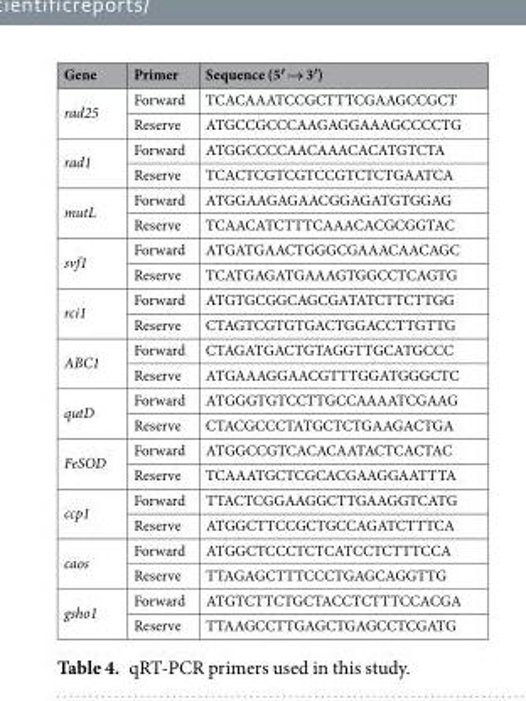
<table><thead><tr><td>Gene</td><td>Primer</td><td>Sequence (5′ → 3′)</td></tr></thead><tbody><tr><td rowspan="2">rad25</td><td>Forward</td><td>TCACAAATCCGCTTTCGAAGCCGCT</td></tr><tr><td>Reserve</td><td>ATGCCGCCCAAGAGGAAAGCCCCTG</td></tr><tr><td rowspan="2">rad1</td><td>Forward</td><td>ATGGCCCCAACAAACACATGTCTA</td></tr><tr><td>Reserve</td><td>TCACTCGTCGTCCGTCTCTGAATCA</td></tr><tr><td rowspan="2">mutL</td><td>Forward</td><td>ATGGAAGAGAACGGAGATGTGGAG</td></tr><tr><td>Reserve</td><td>TCAACATCTTTCAAACACGCGGTAC</td></tr><tr><td rowspan="2">svf1</td><td>Forward</td><td>ATGATGAACTGGGCGAAACAACAGC</td></tr><tr><td>Reserve</td><td>TCATGAGATGAAAGTGGCCTCAGTG</td></tr><tr><td rowspan="2">rci1</td><td>Forward</td><td>ATGTGCGGCAGCGATATCTTCTTGG</td></tr><tr><td>Reserve</td><td>CTAGTCGTGTGACTGGACCTTGTTG</td></tr><tr><td rowspan="2">ABC1</td><td>Forward</td><td>CTAGATGACTGTAGGTTGCATGCCC</td></tr><tr><td>Reserve</td><td>ATGAAAGGAACGTTTGGATGGGCTC</td></tr><tr><td rowspan="2">qutD</td><td>Forward</td><td>ATGGGTGTCCTTGCCAAAATCGAAG</td></tr><tr><td>Reserve</td><td>CTACGCCCTATGCTCTGAAGACTGA</td></tr><tr><td rowspan="2">FeSOD</td><td>Forward</td><td>ATGGCCGTCACACAATACTCACTAC</td></tr><tr><td>Reserve</td><td>TCAAATGCTCGCACGAAGGAATTTA</td></tr><tr><td rowspan="2">ccp1</td><td>Forward</td><td>TTACTCGGAAGGCTTGAAGGTCATG</td></tr><tr><td>Reserve</td><td>ATGGCTTCCGCTGCCAGATCTTTCA</td></tr><tr><td rowspan="2">caos</td><td>Forward</td><td>ATGGCTCCCTCTCATCCTCTTTCCA</td></tr><tr><td>Reserve</td><td>TTAGAGCTTTCCCTGAGCAGGTTG</td></tr><tr><td rowspan="2">gsho1</td><td>Forward</td><td>ATGTCTTCTGCTACCTCTTTCCACGA</td></tr><tr><td>Reserve</td><td>TTAAGCCTTGAGCTGAGCCTCGATG</td></tr></tbody></table>